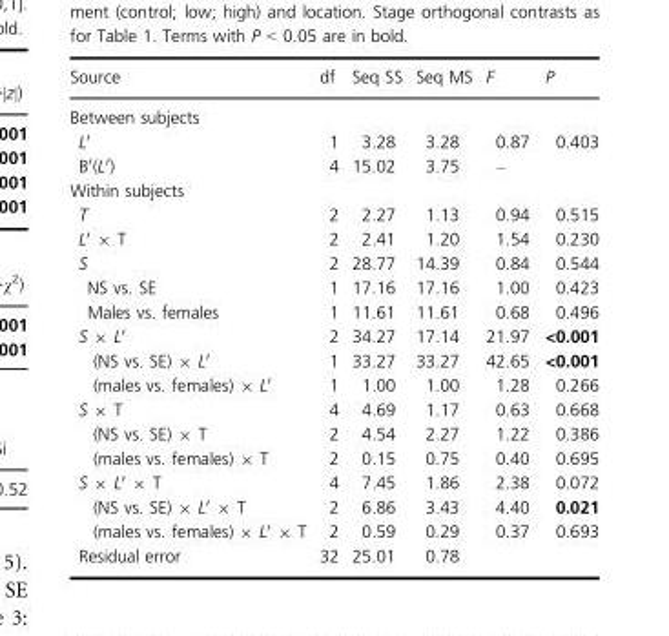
<table><thead><tr><td>Source</td><td>df</td><td>Seq SS</td><td>Seq MS</td><td>F</td><td>P</td></tr></thead><tbody><tr><td colspan="6">Between subjects</td></tr><tr><td>L′</td><td>1</td><td>3.28</td><td>3.28</td><td>0.87</td><td>0.403</td></tr><tr><td>B′(L′)</td><td>4</td><td>15.02</td><td>3.75</td><td>–</td><td></td></tr><tr><td colspan="6">Within subjects</td></tr><tr><td>T</td><td>2</td><td>2.27</td><td>1.13</td><td>0.94</td><td>0.515</td></tr><tr><td>L′ × T</td><td>2</td><td>2.41</td><td>1.20</td><td>1.54</td><td>0.230</td></tr><tr><td>S</td><td>2</td><td>28.77</td><td>14.39</td><td>0.84</td><td>0.544</td></tr><tr><td>NS vs. SE</td><td>1</td><td>17.16</td><td>17.16</td><td>1.00</td><td>0.423</td></tr><tr><td>Males vs. females</td><td>1</td><td>11.61</td><td>11.61</td><td>0.68</td><td>0.496</td></tr><tr><td>S × L′</td><td>2</td><td>34.27</td><td>17.14</td><td>21.97</td><td>&lt;0.001</td></tr><tr><td>(NS vs. SE) × L′</td><td>1</td><td>33.27</td><td>33.27</td><td>42.65</td><td>&lt;0.001</td></tr><tr><td>(males vs. females) × L′</td><td>1</td><td>1.00</td><td>1.00</td><td>1.28</td><td>0.266</td></tr><tr><td>S × T</td><td>4</td><td>4.69</td><td>1.17</td><td>0.63</td><td>0.668</td></tr><tr><td>(NS vs. SE) × T</td><td>2</td><td>4.54</td><td>2.27</td><td>1.22</td><td>0.386</td></tr><tr><td>(males vs. females) × T</td><td>2</td><td>0.15</td><td>0.75</td><td>0.40</td><td>0.695</td></tr><tr><td>S × L′ × T</td><td>4</td><td>7.45</td><td>1.86</td><td>2.38</td><td>0.072</td></tr><tr><td>(NS vs. SE) × L′ × T</td><td>2</td><td>6.86</td><td>3.43</td><td>4.40</td><td>0.021</td></tr><tr><td>(males vs. females) × L′ × T</td><td>2</td><td>0.59</td><td>0.29</td><td>0.37</td><td>0.693</td></tr><tr><td>Residual error</td><td>32</td><td>25.01</td><td>0.78</td><td></td><td></td></tr></tbody></table>